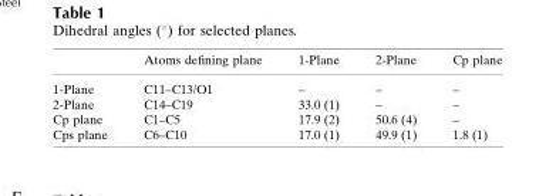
<table><thead><tr><td></td><td>Atoms defining plane</td><td>1-Plane</td><td>2-Plane</td><td>Cp plane</td></tr></thead><tbody><tr><td>1-Plane</td><td>C11–C13/O1</td><td>–</td><td>–</td><td>–</td></tr><tr><td>2-Plane</td><td>C14–C19</td><td>33.0 (1)</td><td>–</td><td>–</td></tr><tr><td>Cp plane</td><td>C1–C5</td><td>17.9 (2)</td><td>50.6 (4)</td><td>–</td></tr><tr><td>Cps plane</td><td>C6–C10</td><td>17.0 (1)</td><td>49.9 (1)</td><td>1.8 (1)</td></tr></tbody></table>